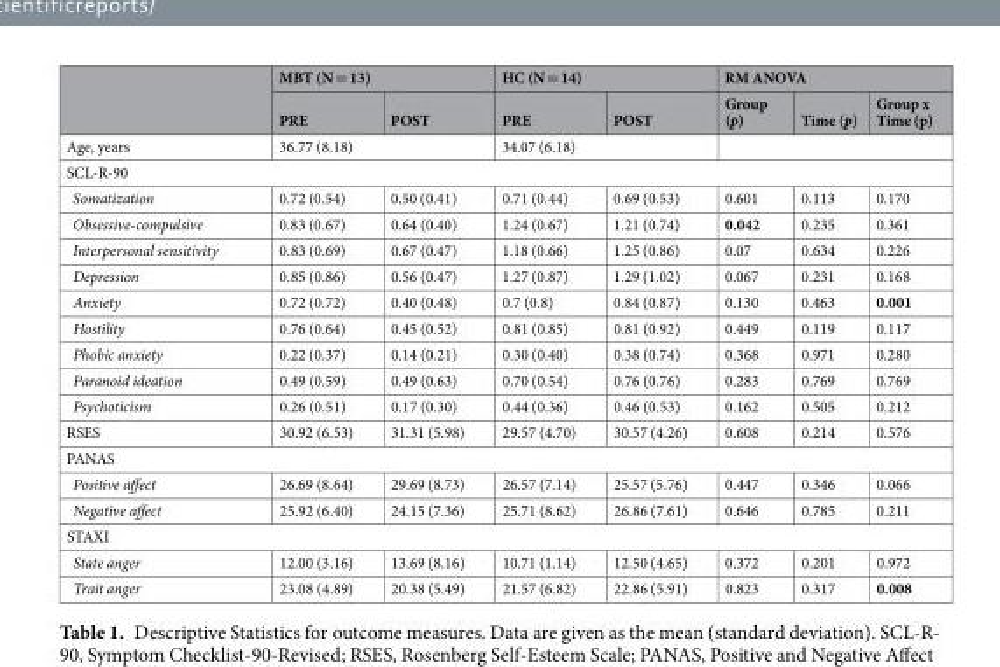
<table><thead><tr><td rowspan="2"></td><td colspan="2">MBT (N = 13)</td><td colspan="2">HC (N = 14)</td><td colspan="3">RM ANOVA</td></tr><tr><td>PRE</td><td>POST</td><td>PRE</td><td>POST</td><td>Group (p)</td><td>Time (p)</td><td>Group x Time (p)</td></tr></thead><tbody><tr><td>Age, years</td><td colspan="2">36.77 (8.18)</td><td colspan="2">34.07 (6.18)</td><td colspan="3"></td></tr><tr><td colspan="8">SCL-R-90</td></tr><tr><td>Somatization</td><td>0.72 (0.54)</td><td>0.50 (0.41)</td><td>0.71 (0.44)</td><td>0.69 (0.53)</td><td>0.601</td><td>0.113</td><td>0.170</td></tr><tr><td>Obsessive-compulsive</td><td>0.83 (0.67)</td><td>0.64 (0.40)</td><td>1.24 (0.67)</td><td>1.21 (0.74)</td><td>0.042</td><td>0.235</td><td>0.361</td></tr><tr><td>Interpersonal sensitivity</td><td>0.83 (0.69)</td><td>0.67 (0.47)</td><td>1.18 (0.66)</td><td>1.25 (0.86)</td><td>0.07</td><td>0.634</td><td>0.226</td></tr><tr><td>Depression</td><td>0.85 (0.86)</td><td>0.56 (0.47)</td><td>1.27 (0.87)</td><td>1.29 (1.02)</td><td>0.067</td><td>0.231</td><td>0.168</td></tr><tr><td>Anxiety</td><td>0.72 (0.72)</td><td>0.40 (0.48)</td><td>0.7 (0.8)</td><td>0.84 (0.87)</td><td>0.130</td><td>0.463</td><td>0.001</td></tr><tr><td>Hostility</td><td>0.76 (0.64)</td><td>0.45 (0.52)</td><td>0.81 (0.85)</td><td>0.81 (0.92)</td><td>0.449</td><td>0.119</td><td>0.117</td></tr><tr><td>Phobic anxiety</td><td>0.22 (0.37)</td><td>0.14 (0.21)</td><td>0.30 (0.40)</td><td>0.38 (0.74)</td><td>0.368</td><td>0.971</td><td>0.280</td></tr><tr><td>Paranoid ideation</td><td>0.49 (0.59)</td><td>0.49 (0.63)</td><td>0.70 (0.54)</td><td>0.76 (0.76)</td><td>0.283</td><td>0.769</td><td>0.769</td></tr><tr><td>Psychoticism</td><td>0.26 (0.51)</td><td>0.17 (0.30)</td><td>0.44 (0.36)</td><td>0.46 (0.53)</td><td>0.162</td><td>0.505</td><td>0.212</td></tr><tr><td>RSES</td><td>30.92 (6.53)</td><td>31.31 (5.98)</td><td>29.57 (4.70)</td><td>30.57 (4.26)</td><td>0.608</td><td>0.214</td><td>0.576</td></tr><tr><td colspan="8">PANAS</td></tr><tr><td>Positive affect</td><td>26.69 (8.64)</td><td>29.69 (8.73)</td><td>26.57 (7.14)</td><td>25.57 (5.76)</td><td>0.447</td><td>0.346</td><td>0.066</td></tr><tr><td>Negative affect</td><td>25.92 (6.40)</td><td>24.15 (7.36)</td><td>25.71 (8.62)</td><td>26.86 (7.61)</td><td>0.646</td><td>0.785</td><td>0.211</td></tr><tr><td colspan="8">STAXI</td></tr><tr><td>State anger</td><td>12.00 (3.16)</td><td>13.69 (8.16)</td><td>10.71 (1.14)</td><td>12.50 (4.65)</td><td>0.372</td><td>0.201</td><td>0.972</td></tr><tr><td>Trait anger</td><td>23.08 (4.89)</td><td>20.38 (5.49)</td><td>21.57 (6.82)</td><td>22.86 (5.91)</td><td>0.823</td><td>0.317</td><td>0.008</td></tr></tbody></table>